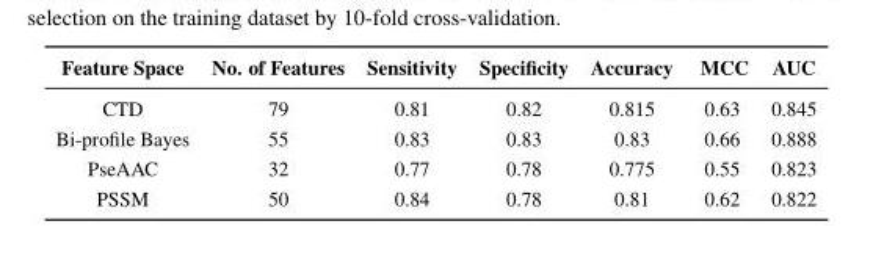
<table><thead><tr><td>Feature Space</td><td>No. of Features</td><td>Sensitivity</td><td>Specificity</td><td>Accuracy</td><td>MCC</td><td>AUC</td></tr></thead><tbody><tr><td>CTD</td><td>79</td><td>0.81</td><td>0.82</td><td>0.815</td><td>0.63</td><td>0.845</td></tr><tr><td>Bi-profile Bayes</td><td>55</td><td>0.83</td><td>0.83</td><td>0.83</td><td>0.66</td><td>0.888</td></tr><tr><td>PseAAC</td><td>32</td><td>0.77</td><td>0.78</td><td>0.775</td><td>0.55</td><td>0.823</td></tr><tr><td>PSSM</td><td>50</td><td>0.84</td><td>0.78</td><td>0.81</td><td>0.62</td><td>0.822</td></tr></tbody></table>